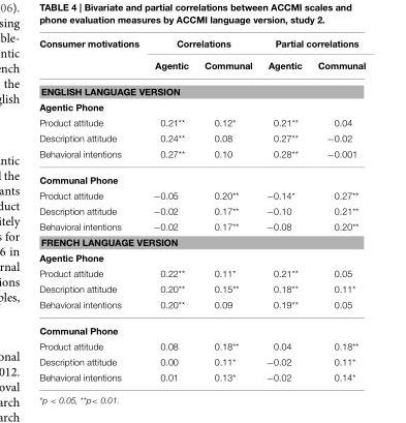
<table><thead><tr><td rowspan="2">Consumer motivations</td><td colspan="2">Correlations</td><td colspan="2">Partial correlations</td></tr><tr><td>Agentic</td><td>Communal</td><td>Agentic</td><td>Communal</td></tr></thead><tbody><tr><td colspan="5">ENGLISH LANGUAGE VERSION</td></tr><tr><td colspan="5">Agentic Phone</td></tr><tr><td>Product attitude</td><td>0.21**</td><td>0.12*</td><td>0.21**</td><td>0.04</td></tr><tr><td>Description attitude</td><td>0.24**</td><td>0.08</td><td>0.27**</td><td>−0.02</td></tr><tr><td>Behavioral intentions</td><td>0.27**</td><td>0.10</td><td>0.28**</td><td>−0.001</td></tr><tr><td colspan="5">Communal Phone</td></tr><tr><td>Product attitude</td><td>−0.05</td><td>0.20**</td><td>−0.14*</td><td>0.27**</td></tr><tr><td>Description attitude</td><td>−0.02</td><td>0.17**</td><td>−0.10</td><td>0.21**</td></tr><tr><td>Behavioral intentions</td><td>−0.02</td><td>0.17**</td><td>−0.08</td><td>0.20**</td></tr><tr><td colspan="5">FRENCH LANGUAGE VERSION</td></tr><tr><td colspan="5">Agentic Phone</td></tr><tr><td>Product attitude</td><td>0.22**</td><td>0.11*</td><td>0.21**</td><td>0.05</td></tr><tr><td>Description attitude</td><td>0.20**</td><td>0.15**</td><td>0.18**</td><td>0.11*</td></tr><tr><td>Behavioral intentions</td><td>0.20**</td><td>0.09</td><td>0.19**</td><td>0.05</td></tr><tr><td colspan="5">Communal Phone</td></tr><tr><td>Product attitude</td><td>0.08</td><td>0.18**</td><td>0.04</td><td>0.18**</td></tr><tr><td>Description attitude</td><td>0.00</td><td>0.11*</td><td>−0.02</td><td>0.11*</td></tr><tr><td>Behavioral intentions</td><td>0.01</td><td>0.13*</td><td>−0.02</td><td>0.14*</td></tr></tbody></table>